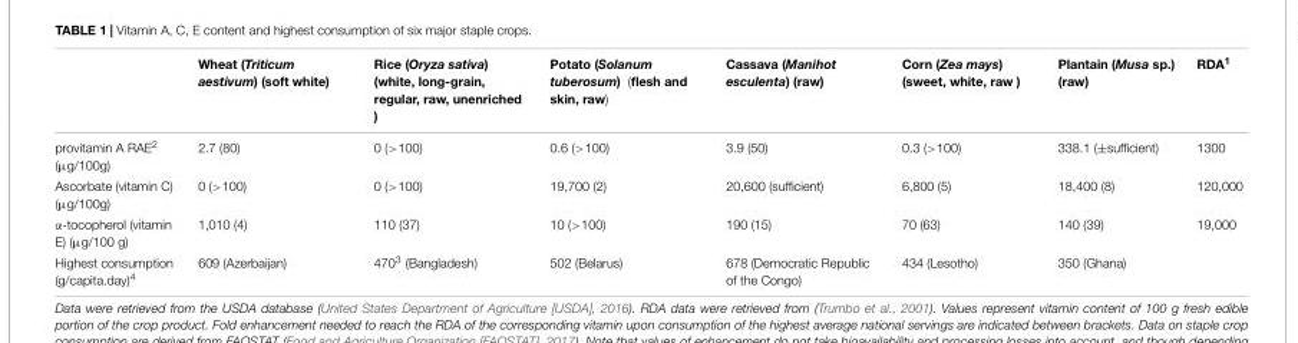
<table><thead><tr><td></td><td>Wheat (Triticum aestivum) (soft white)</td><td>Rice (Oryza sativa) (white, long-grain, regular, raw, unenriched )</td><td>Potato (Solanum tuberosum) (flesh and skin, raw)</td><td>Cassava (Manihot esculenta) (raw)</td><td>Corn (Zea mays) (sweet, white, raw )</td><td>Plantain (Musa sp.) (raw)</td><td>RDA<sup>1</sup></td></tr></thead><tbody><tr><td>provitamin A RAE<sup>2</sup> (µg/100g)</td><td>2.7 (80)</td><td>0 (&gt;100)</td><td>0.6 (&gt;100)</td><td>3.9 (50)</td><td>0.3 (&gt;100)</td><td>338.1 (±sufficient)</td><td>1300</td></tr><tr><td>Ascorbate (vitamin C) (µg/100g)</td><td>0 (&gt;100)</td><td>0 (&gt;100)</td><td>19,700 (2)</td><td>20,600 (sufficient)</td><td>6,800 (5)</td><td>18,400 (8)</td><td>120,000</td></tr><tr><td>α-tocopherol (vitamin E) (µg/100 g)</td><td>1,010 (4)</td><td>110 (37)</td><td>10 (&gt;100)</td><td>190 (15)</td><td>70 (63)</td><td>140 (39)</td><td>19,000</td></tr><tr><td>Highest consumption (g/capita.day)<sup>4</sup></td><td>609 (Azerbaijan)</td><td>470<sup>3</sup> (Bangladesh)</td><td>502 (Belarus)</td><td>678 (Democratic Republic of the Congo)</td><td>434 (Lesotho)</td><td>350 (Ghana)</td><td></td></tr></tbody></table>